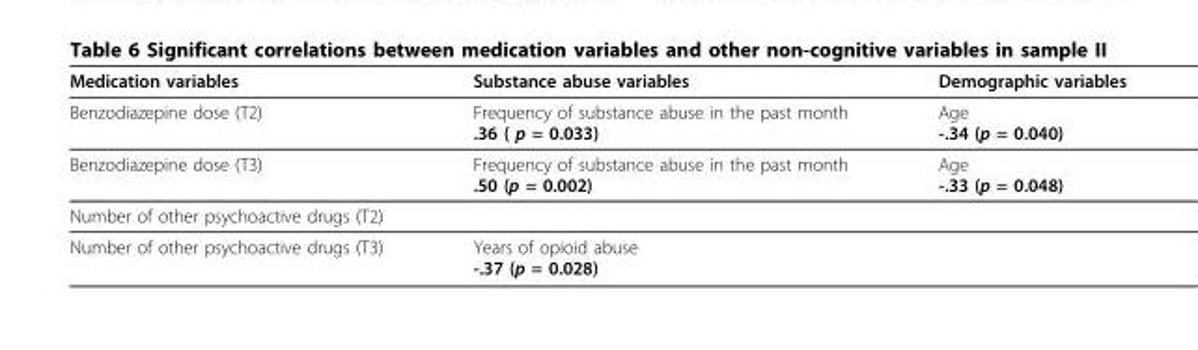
<table><thead><tr><td>Medication variables</td><td>Substance abuse variables</td><td>Demographic variables</td></tr></thead><tbody><tr><td>Benzodiazepine dose (T2)</td><td>Frequency of substance abuse in the past month .36 ( p = 0.033)</td><td>Age -.34 (p = 0.040)</td></tr><tr><td>Benzodiazepine dose (T3)</td><td>Frequency of substance abuse in the past month .50 (p = 0.002)</td><td>Age -.33 (p = 0.048)</td></tr><tr><td colspan="3">Number of other psychoactive drugs (T2)</td></tr><tr><td>Number of other psychoactive drugs (T3)</td><td>Years of opioid abuse -.37 (p = 0.028)</td><td></td></tr></tbody></table>